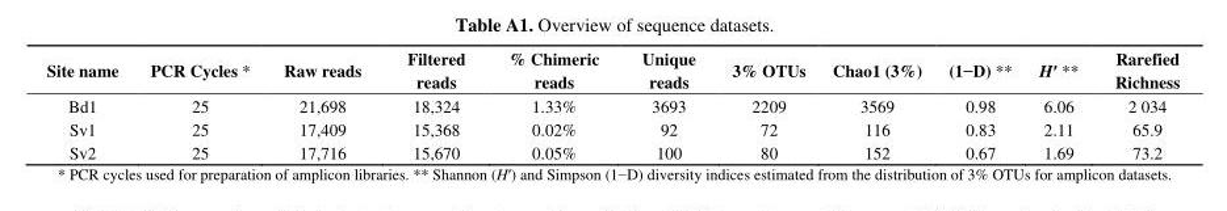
<table><thead><tr><td>Site name</td><td>PCR Cycles *</td><td>Raw reads</td><td>Filtered reads</td><td>% Chimeric reads</td><td>Unique reads</td><td>3% OTUs</td><td>Chao1 (3%)</td><td>(1−D) **</td><td>Hʹ **</td><td>Rarefied Richness</td></tr></thead><tbody><tr><td>Bd1</td><td>25</td><td>21,698</td><td>18,324</td><td>1.33%</td><td>3693</td><td>2209</td><td>3569</td><td>0.98</td><td>6.06</td><td>2 034</td></tr><tr><td>Sv1</td><td>25</td><td>17,409</td><td>15,368</td><td>0.02%</td><td>92</td><td>72</td><td>116</td><td>0.83</td><td>2.11</td><td>65.9</td></tr><tr><td>Sv2</td><td>25</td><td>17,716</td><td>15,670</td><td>0.05%</td><td>100</td><td>80</td><td>152</td><td>0.67</td><td>1.69</td><td>73.2</td></tr></tbody></table>